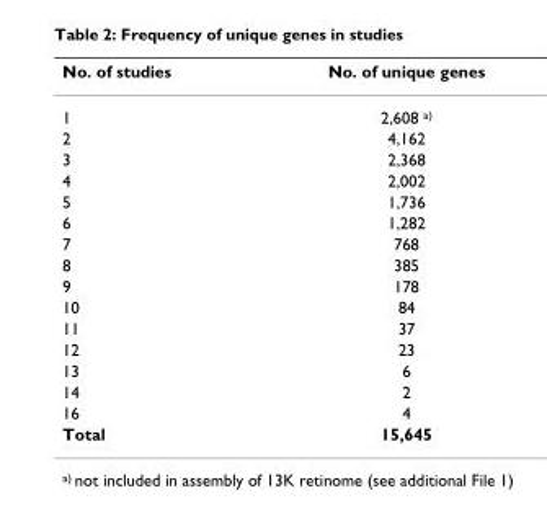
<table><thead><tr><td>No. of studies</td><td>No. of unique genes</td></tr></thead><tbody><tr><td>1</td><td>2,608 <sup>a)</sup></td></tr><tr><td>2</td><td>4,162</td></tr><tr><td>3</td><td>2,368</td></tr><tr><td>4</td><td>2,002</td></tr><tr><td>5</td><td>1,736</td></tr><tr><td>6</td><td>1,282</td></tr><tr><td>7</td><td>768</td></tr><tr><td>8</td><td>385</td></tr><tr><td>9</td><td>178</td></tr><tr><td>10</td><td>84</td></tr><tr><td>11</td><td>37</td></tr><tr><td>12</td><td>23</td></tr><tr><td>13</td><td>6</td></tr><tr><td>14</td><td>2</td></tr><tr><td>16</td><td>4</td></tr><tr><td>Total</td><td>15,645</td></tr></tbody></table>